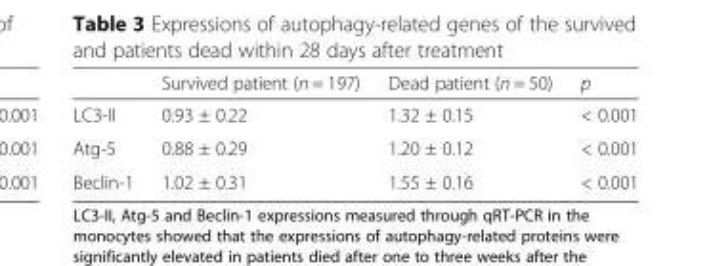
<table><thead><tr><td></td><td>Survived patient (n = 197)</td><td>Dead patient (n = 50)</td><td>p</td></tr></thead><tbody><tr><td>LC3-II</td><td>0.93 ± 0.22</td><td>1.32 ± 0.15</td><td>&lt; 0.001</td></tr><tr><td>Atg-5</td><td>0.88 ± 0.29</td><td>1.20 ± 0.12</td><td>&lt; 0.001</td></tr><tr><td>Beclin-1</td><td>1.02 ± 0.31</td><td>1.55 ± 0.16</td><td>&lt; 0.001</td></tr></tbody></table>